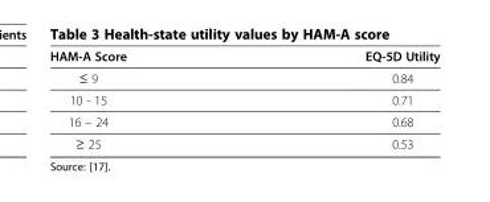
<table><thead><tr><td>HAM-A Score</td><td>EQ-5D Utility</td></tr></thead><tbody><tr><td>≤ 9</td><td>0.84</td></tr><tr><td>10 - 15</td><td>0.71</td></tr><tr><td>16 – 24</td><td>0.68</td></tr><tr><td>≥ 25</td><td>0.53</td></tr></tbody></table>